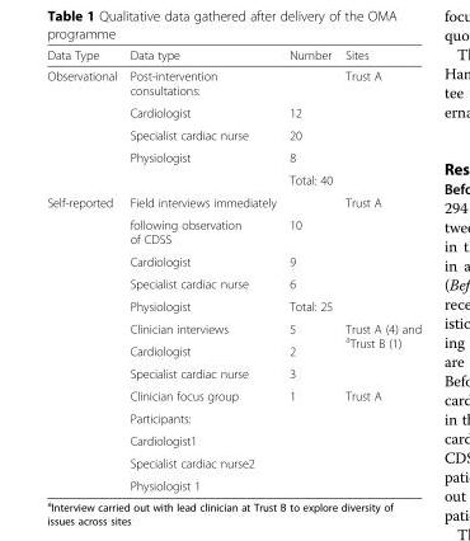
<table><thead><tr><td>Data Type</td><td>Data type</td><td>Number</td><td>Sites</td></tr></thead><tbody><tr><td rowspan="5">Observational</td><td>Post-intervention consultations:</td><td></td><td rowspan="5">Trust A</td></tr><tr><td>Cardiologist</td><td>12</td></tr><tr><td>Specialist cardiac nurse</td><td>20</td></tr><tr><td>Physiologist</td><td>8</td></tr><tr><td></td><td>Total: 40</td></tr><tr><td rowspan="13">Self-reported</td><td>Field interviews immediately</td><td></td><td rowspan="5">Trust A</td></tr><tr><td>following observation of CDSS</td><td>10</td></tr><tr><td>Cardiologist</td><td>9</td></tr><tr><td>Specialist cardiac nurse</td><td>6</td></tr><tr><td>Physiologist</td><td>Total: 25</td></tr><tr><td>Clinician interviews</td><td>5</td><td rowspan="3">Trust A (4) and <sup>a</sup>Trust B (1)</td></tr><tr><td>Cardiologist</td><td>2</td></tr><tr><td>Specialist cardiac nurse</td><td>3</td></tr><tr><td>Clinician focus group</td><td>1</td><td rowspan="5">Trust A</td></tr><tr><td>Participants:</td><td rowspan="4"></td></tr><tr><td>Cardiologist1</td></tr><tr><td>Specialist cardiac nurse2</td></tr><tr><td>Physiologist 1</td></tr></tbody></table>